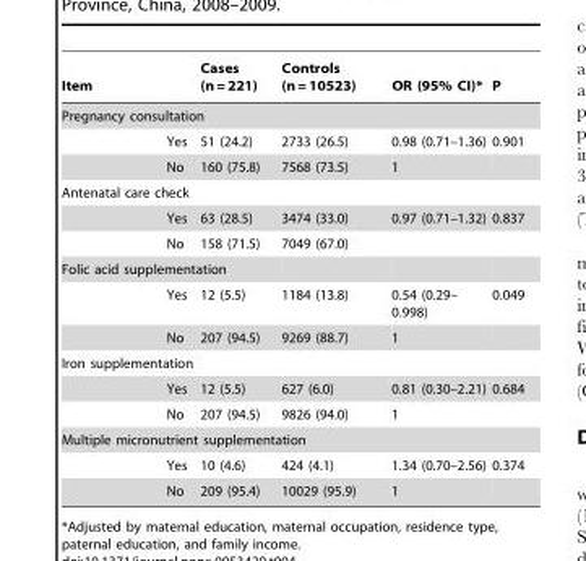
<table><thead><tr><td>Item</td><td></td><td>Cases (n = 221)</td><td>Controls (n = 10523)</td><td>OR (95% CI)*</td><td>P</td></tr></thead><tbody><tr><td colspan="6">Pregnancy consultation</td></tr><tr><td></td><td>Yes</td><td>51 (24.2)</td><td>2733 (26.5)</td><td>0.98 (0.71–1.36)</td><td>0.901</td></tr><tr><td></td><td>No</td><td>160 (75.8)</td><td>7568 (73.5)</td><td>1</td><td></td></tr><tr><td colspan="6">Antenatal care check</td></tr><tr><td></td><td>Yes</td><td>63 (28.5)</td><td>3474 (33.0)</td><td>0.97 (0.71–1.32)</td><td>0.837</td></tr><tr><td></td><td>No</td><td>158 (71.5)</td><td>7049 (67.0)</td><td></td><td></td></tr><tr><td colspan="6">Folic acid supplementation</td></tr><tr><td></td><td>Yes</td><td>12 (5.5)</td><td>1184 (13.8)</td><td>0.54 (0.29– 0.998)</td><td>0.049</td></tr><tr><td></td><td>No</td><td>207 (94.5)</td><td>9269 (88.7)</td><td>1</td><td></td></tr><tr><td colspan="6">Iron supplementation</td></tr><tr><td></td><td>Yes</td><td>12 (5.5)</td><td>627 (6.0)</td><td>0.81 (0.30–2.21)</td><td>0.684</td></tr><tr><td></td><td>No</td><td>207 (94.5)</td><td>9826 (94.0)</td><td>1</td><td></td></tr><tr><td colspan="6">Multiple micronutrient supplementation</td></tr><tr><td></td><td>Yes</td><td>10 (4.6)</td><td>424 (4.1)</td><td>1.34 (0.70–2.56)</td><td>0.374</td></tr><tr><td></td><td>No</td><td>209 (95.4)</td><td>10029 (95.9)</td><td>1</td><td></td></tr></tbody></table>